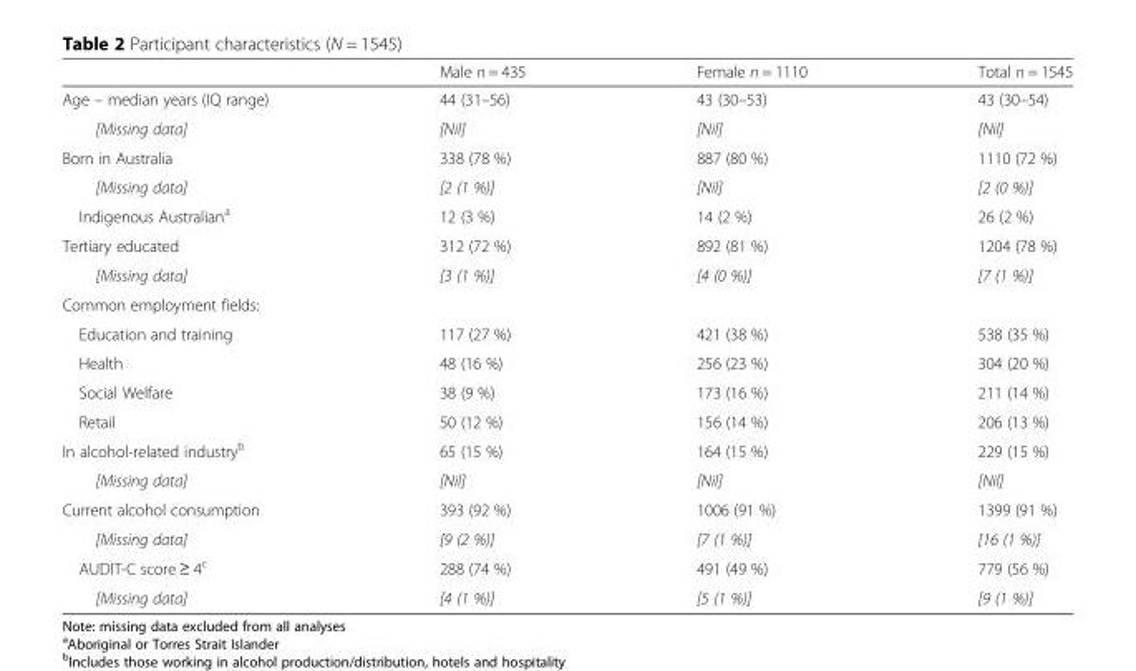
<table><thead><tr><td></td><td>Male n = 435</td><td>Female n = 1110</td><td>Total n = 1545</td></tr></thead><tbody><tr><td>Age – median years (IQ range)</td><td>44 (31–56)</td><td>43 (30–53)</td><td>43 (30–54)</td></tr><tr><td>[Missing data]</td><td>[Nil]</td><td>[Nil]</td><td>[Nil]</td></tr><tr><td>Born in Australia</td><td>338 (78 %)</td><td>887 (80 %)</td><td>1110 (72 %)</td></tr><tr><td>[Missing data]</td><td>[2 (1 %)]</td><td>[Nil]</td><td>[2 (0 %)]</td></tr><tr><td>Indigenous Australian<sup>a</sup></td><td>12 (3 %)</td><td>14 (2 %)</td><td>26 (2 %)</td></tr><tr><td>Tertiary educated</td><td>312 (72 %)</td><td>892 (81 %)</td><td>1204 (78 %)</td></tr><tr><td>[Missing data]</td><td>[3 (1 %)]</td><td>[4 (0 %)]</td><td>[7 (1 %)]</td></tr><tr><td colspan="4">Common employment fields:</td></tr><tr><td>Education and training</td><td>117 (27 %)</td><td>421 (38 %)</td><td>538 (35 %)</td></tr><tr><td>Health</td><td>48 (16 %)</td><td>256 (23 %)</td><td>304 (20 %)</td></tr><tr><td>Social Welfare</td><td>38 (9 %)</td><td>173 (16 %)</td><td>211 (14 %)</td></tr><tr><td>Retail</td><td>50 (12 %)</td><td>156 (14 %)</td><td>206 (13 %)</td></tr><tr><td>In alcohol-related industry<sup>b</sup></td><td>65 (15 %)</td><td>164 (15 %)</td><td>229 (15 %)</td></tr><tr><td>[Missing data]</td><td>[Nil]</td><td>[Nil]</td><td>[Nil]</td></tr><tr><td>Current alcohol consumption</td><td>393 (92 %)</td><td>1006 (91 %)</td><td>1399 (91 %)</td></tr><tr><td>[Missing data]</td><td>[9 (2 %)]</td><td>[7 (1 %)]</td><td>[16 (1 %)]</td></tr><tr><td>AUDIT-C score ≥ 4<sup>c</sup></td><td>288 (74 %)</td><td>491 (49 %)</td><td>779 (56 %)</td></tr><tr><td>[Missing data]</td><td>[4 (1 %)]</td><td>[5 (1 %)]</td><td>[9 (1 %)]</td></tr></tbody></table>